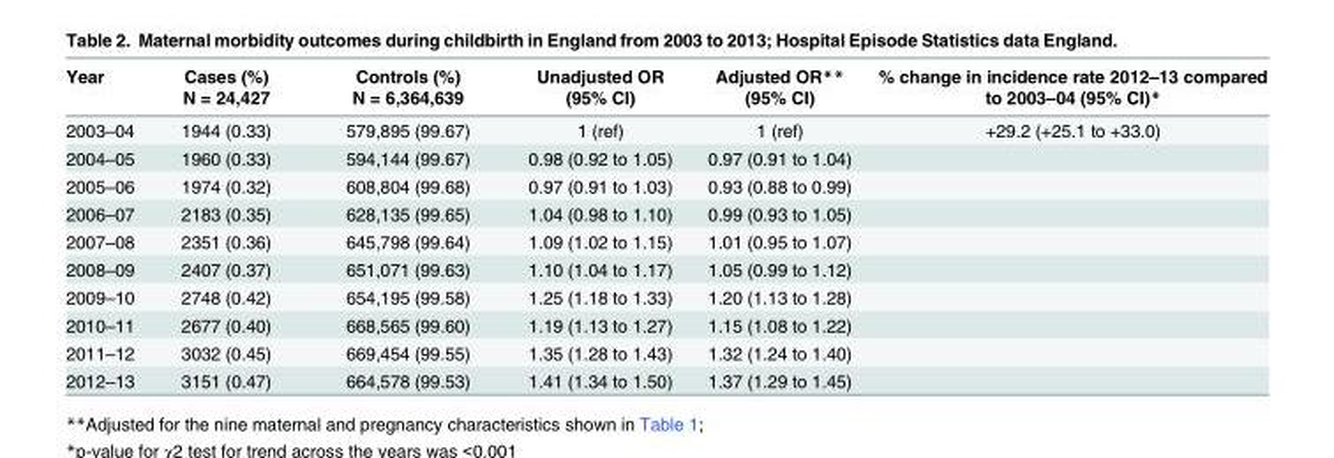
<table><thead><tr><td>Year</td><td>Cases (%) N = 24,427</td><td>Controls (%) N = 6,364,639</td><td>Unadjusted OR (95% CI)</td><td>Adjusted OR** (95% CI)</td><td>% change in incidence rate 2012–13 compared to 2003–04 (95% CI)*</td></tr></thead><tbody><tr><td>2003–04</td><td>1944 (0.33)</td><td>579,895 (99.67)</td><td>1 (ref)</td><td>1 (ref)</td><td>+29.2 (+25.1 to +33.0)</td></tr><tr><td>2004–05</td><td>1960 (0.33)</td><td>594,144 (99.67)</td><td>0.98 (0.92 to 1.05)</td><td>0.97 (0.91 to 1.04)</td><td></td></tr><tr><td>2005–06</td><td>1974 (0.32)</td><td>608,804 (99.68)</td><td>0.97 (0.91 to 1.03)</td><td>0.93 (0.88 to 0.99)</td><td></td></tr><tr><td>2006–07</td><td>2183 (0.35)</td><td>628,135 (99.65)</td><td>1.04 (0.98 to 1.10)</td><td>0.99 (0.93 to 1.05)</td><td></td></tr><tr><td>2007–08</td><td>2351 (0.36)</td><td>645,798 (99.64)</td><td>1.09 (1.02 to 1.15)</td><td>1.01 (0.95 to 1.07)</td><td></td></tr><tr><td>2008–09</td><td>2407 (0.37)</td><td>651,071 (99.63)</td><td>1.10 (1.04 to 1.17)</td><td>1.05 (0.99 to 1.12)</td><td></td></tr><tr><td>2009–10</td><td>2748 (0.42)</td><td>654,195 (99.58)</td><td>1.25 (1.18 to 1.33)</td><td>1.20 (1.13 to 1.28)</td><td></td></tr><tr><td>2010–11</td><td>2677 (0.40)</td><td>668,565 (99.60)</td><td>1.19 (1.13 to 1.27)</td><td>1.15 (1.08 to 1.22)</td><td></td></tr><tr><td>2011–12</td><td>3032 (0.45)</td><td>669,454 (99.55)</td><td>1.35 (1.28 to 1.43)</td><td>1.32 (1.24 to 1.40)</td><td></td></tr><tr><td>2012–13</td><td>3151 (0.47)</td><td>664,578 (99.53)</td><td>1.41 (1.34 to 1.50)</td><td>1.37 (1.29 to 1.45)</td><td></td></tr></tbody></table>